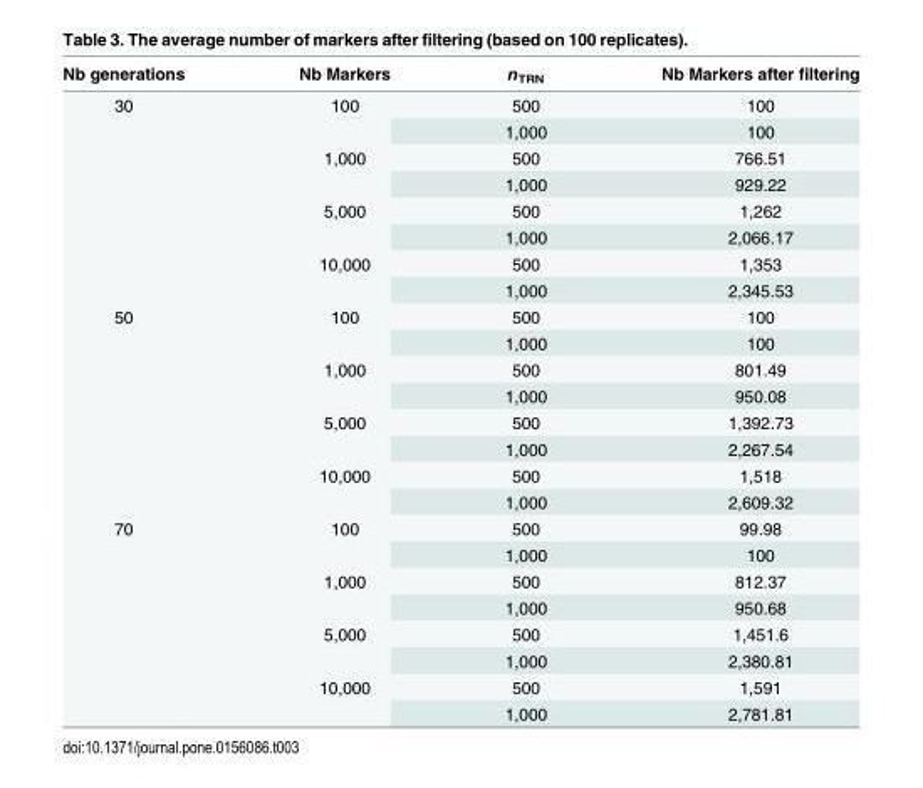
<table><thead><tr><td>Nb generations</td><td>Nb Markers</td><td>n<sub>TRN</sub></td><td>Nb Markers after filtering</td></tr></thead><tbody><tr><td rowspan="8">30</td><td rowspan="2">100</td><td>500</td><td>100</td></tr><tr><td>1,000</td><td>100</td></tr><tr><td rowspan="2">1,000</td><td>500</td><td>766.51</td></tr><tr><td>1,000</td><td>929.22</td></tr><tr><td rowspan="2">5,000</td><td>500</td><td>1,262</td></tr><tr><td>1,000</td><td>2,066.17</td></tr><tr><td rowspan="2">10,000</td><td>500</td><td>1,353</td></tr><tr><td>1,000</td><td>2,345.53</td></tr><tr><td rowspan="8">50</td><td rowspan="2">100</td><td>500</td><td>100</td></tr><tr><td>1,000</td><td>100</td></tr><tr><td rowspan="2">1,000</td><td>500</td><td>801.49</td></tr><tr><td>1,000</td><td>950.08</td></tr><tr><td rowspan="2">5,000</td><td>500</td><td>1,392.73</td></tr><tr><td>1,000</td><td>2,267.54</td></tr><tr><td rowspan="2">10,000</td><td>500</td><td>1,518</td></tr><tr><td>1,000</td><td>2,609.32</td></tr><tr><td rowspan="8">70</td><td rowspan="2">100</td><td>500</td><td>99.98</td></tr><tr><td>1,000</td><td>100</td></tr><tr><td rowspan="2">1,000</td><td>500</td><td>812.37</td></tr><tr><td>1,000</td><td>950.68</td></tr><tr><td rowspan="2">5,000</td><td>500</td><td>1,451.6</td></tr><tr><td>1,000</td><td>2,380.81</td></tr><tr><td rowspan="2">10,000</td><td>500</td><td>1,591</td></tr><tr><td>1,000</td><td>2,781.81</td></tr></tbody></table>